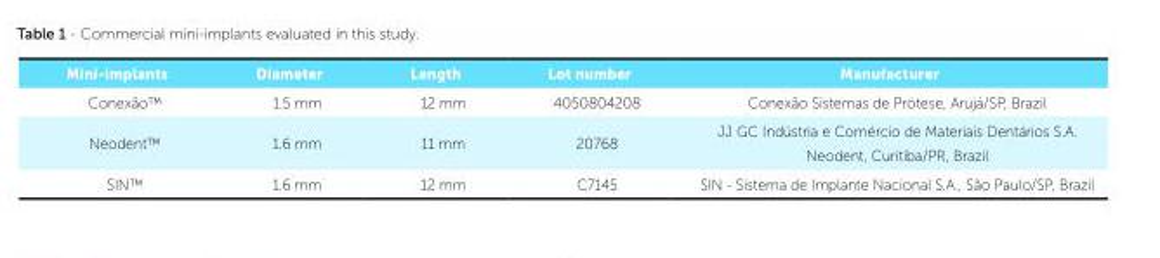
<table><tbody><tr><td>Mini-implants</td><td>Diameter</td><td>Length</td><td>Lot number</td><td>Manufacturer</td></tr><tr><td>Conexão™</td><td>1.5 mm</td><td>12 mm</td><td>4050804208</td><td>Conexão Sistemas de Prótese, Arujá/SP, Brazil</td></tr><tr><td>Neodent™</td><td>1.6 mm</td><td>11 mm</td><td>20768</td><td>JJ GC Indústria e Comércio de Materiais Dentários S.A. Neodent, Curitiba/PR, Brazil</td></tr><tr><td>SIN™</td><td>1.6 mm</td><td>12 mm</td><td>C7145</td><td>SIN - Sistema de Implante Nacional S.A., São Paulo/SP, Brazil</td></tr></tbody></table>